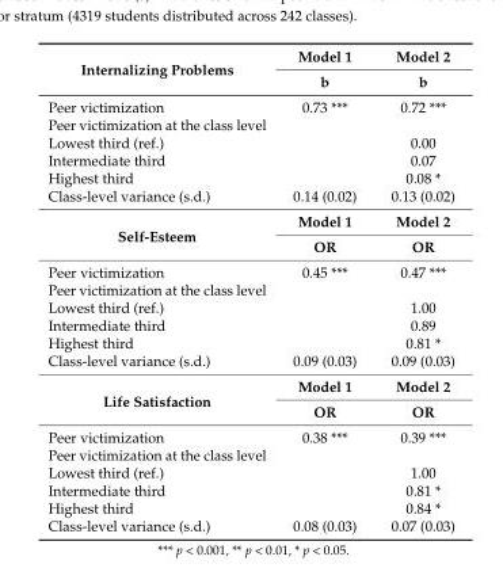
<table><tbody><tr><td rowspan="2">Internalizing Problems</td><td>Model 1</td><td>Model 2</td></tr><tr><td>b</td><td>b</td></tr><tr><td>Peer victimization</td><td>0.73 ***</td><td>0.72 ***</td></tr><tr><td colspan="3">Peer victimization at the class level</td></tr><tr><td>Lowest third (ref.)</td><td></td><td>0.00</td></tr><tr><td>Intermediate third</td><td></td><td>0.07</td></tr><tr><td>Highest third</td><td></td><td>0.08 *</td></tr><tr><td>Class-level variance (s.d.)</td><td>0.14 (0.02)</td><td>0.13 (0.02)</td></tr><tr><td rowspan="2">Self-Esteem</td><td>Model 1</td><td>Model 2</td></tr><tr><td>OR</td><td>OR</td></tr><tr><td>Peer victimization</td><td>0.45 ***</td><td>0.47 ***</td></tr><tr><td colspan="3">Peer victimization at the class level</td></tr><tr><td>Lowest third (ref.)</td><td></td><td>1.00</td></tr><tr><td>Intermediate third</td><td></td><td>0.89</td></tr><tr><td>Highest third</td><td></td><td>0.81 *</td></tr><tr><td>Class-level variance (s.d.)</td><td>0.09 (0.03)</td><td>0.09 (0.03)</td></tr><tr><td rowspan="2">Life Satisfaction</td><td>Model 1</td><td>Model 2</td></tr><tr><td>OR</td><td>OR</td></tr><tr><td>Peer victimization</td><td>0.38 ***</td><td>0.39 ***</td></tr><tr><td colspan="3">Peer victimization at the class level</td></tr><tr><td>Lowest third (ref.)</td><td></td><td>1.00</td></tr><tr><td>Intermediate third</td><td></td><td>0.81 *</td></tr><tr><td>Highest third</td><td></td><td>0.84 *</td></tr><tr><td>Class-level variance (s.d.)</td><td>0.08 (0.03)</td><td>0.07 (0.03)</td></tr></tbody></table>